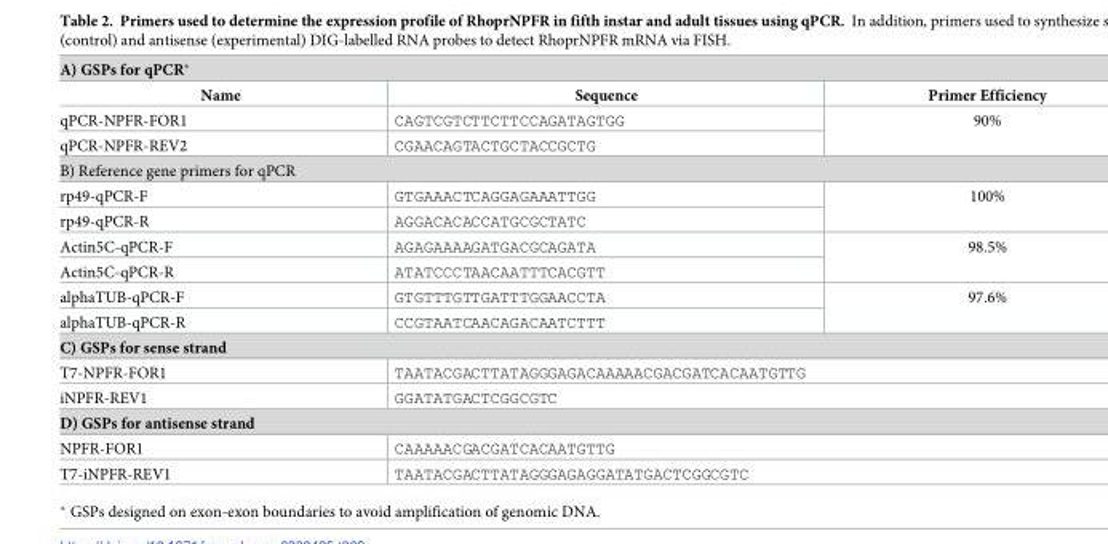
<table><tbody><tr><td colspan="3">A) GSPs for qPCR*</td></tr><tr><td>Name</td><td>Sequence</td><td>Primer Efficiency</td></tr><tr><td>qPCR-NPFR-FOR1</td><td>CAGTCGTCTTCTTCCAGATAGTGG</td><td rowspan="2">90%</td></tr><tr><td>qPCR-NPFR-REV2</td><td>CGAACAGTACTGCTACCGCTG</td></tr><tr><td colspan="3">B) Reference gene primers for qPCR</td></tr><tr><td>rp49-qPCR-F</td><td>GTGAAACTCAGGAGAAATTGG</td><td rowspan="2">100%</td></tr><tr><td>rp49-qPCR-R</td><td>AGGACACACCATGCGCTATC</td></tr><tr><td>Actin5C-qPCR-F</td><td>AGAGAAAAGATGACGCAGATA</td><td rowspan="2">98.5%</td></tr><tr><td>Actin5C-qPCR-R</td><td>ATATCCCTAACAATTTCACGTT</td></tr><tr><td>alphaTUB-qPCR-F</td><td>GTGTTTGTTGATTTGGAACCTA</td><td rowspan="2">97.6%</td></tr><tr><td>alphaTUB-qPCR-R</td><td>CCGTAATCAACAGACAATCTTT</td></tr><tr><td colspan="3">C) GSPs for sense strand</td></tr><tr><td>T7-NPFR-FOR1</td><td colspan="2">TAATACGACTTATAGGGAGACAAAAACGACGATCACAATGTTG</td></tr><tr><td>iNPFR-REV1</td><td colspan="2">GGATATGACTCGGCGTC</td></tr><tr><td colspan="3">D) GSPs for antisense strand</td></tr><tr><td>NPFR-FOR1</td><td colspan="2">CAAAAACGACGATCACAATGTTG</td></tr><tr><td>T7-iNPFR-REV1</td><td colspan="2">TAATACGACTTATAGGGAGAGGATATGACTCGGCGTC</td></tr></tbody></table>